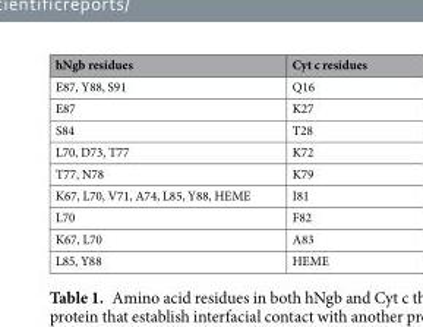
<table><thead><tr><td>hNgb residues</td><td>Cyt c residues</td></tr></thead><tbody><tr><td>E87, Y88, S91</td><td>Q16</td></tr><tr><td>E87</td><td>K27</td></tr><tr><td>S84</td><td>T28</td></tr><tr><td>L70, D73, T77</td><td>K72</td></tr><tr><td>T77, N78</td><td>K79</td></tr><tr><td>K67, L70, V71, A74, L85, Y88, HEME</td><td>I81</td></tr><tr><td>L70</td><td>F82</td></tr><tr><td>K67, L70</td><td>A83</td></tr><tr><td>L85, Y88</td><td>HEME</td></tr></tbody></table>